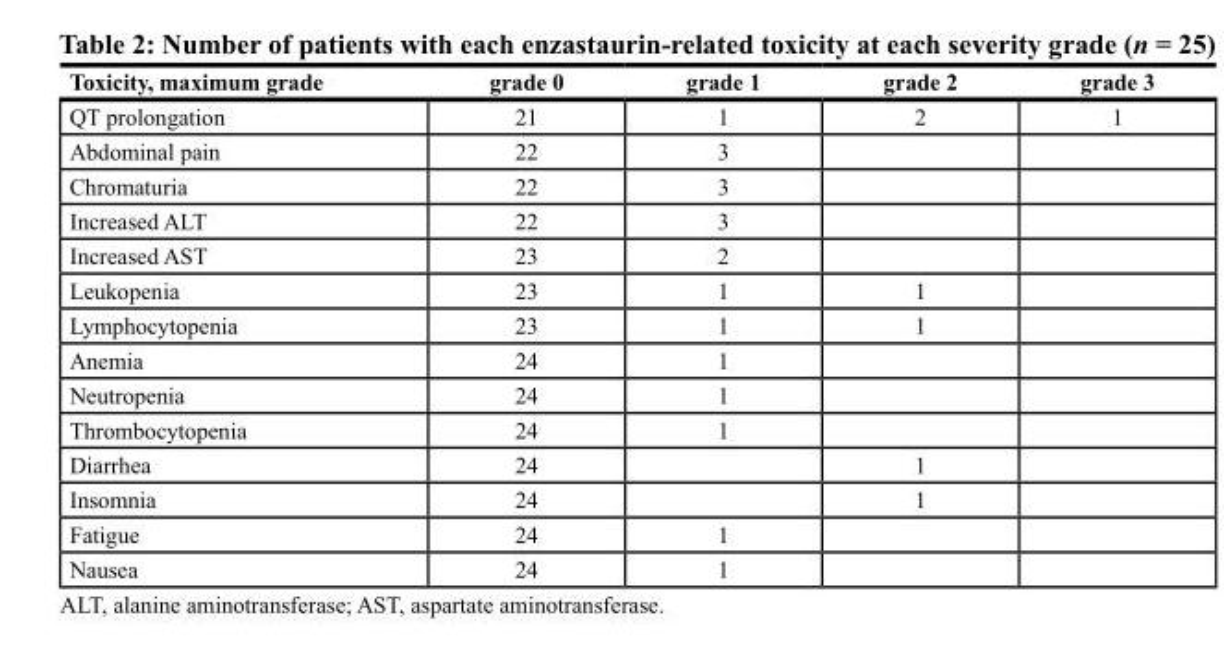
<table><thead><tr><td>Toxicity, maximum grade</td><td>grade 0</td><td>grade 1</td><td>grade 2</td><td>grade 3</td></tr></thead><tbody><tr><td>QT prolongation</td><td>21</td><td>1</td><td>2</td><td>1</td></tr><tr><td>Abdominal pain</td><td>22</td><td>3</td><td></td><td></td></tr><tr><td>Chromaturia</td><td>22</td><td>3</td><td></td><td></td></tr><tr><td>Increased ALT</td><td>22</td><td>3</td><td></td><td></td></tr><tr><td>Increased AST</td><td>23</td><td>2</td><td></td><td></td></tr><tr><td>Leukopenia</td><td>23</td><td>1</td><td>1</td><td></td></tr><tr><td>Lymphocytopenia</td><td>23</td><td>1</td><td>1</td><td></td></tr><tr><td>Anemia</td><td>24</td><td>1</td><td></td><td></td></tr><tr><td>Neutropenia</td><td>24</td><td>1</td><td></td><td></td></tr><tr><td>Thrombocytopenia</td><td>24</td><td>1</td><td></td><td></td></tr><tr><td>Diarrhea</td><td>24</td><td></td><td>1</td><td></td></tr><tr><td>Insomnia</td><td>24</td><td></td><td>1</td><td></td></tr><tr><td>Fatigue</td><td>24</td><td>1</td><td></td><td></td></tr><tr><td>Nausea</td><td>24</td><td>1</td><td></td><td></td></tr></tbody></table>